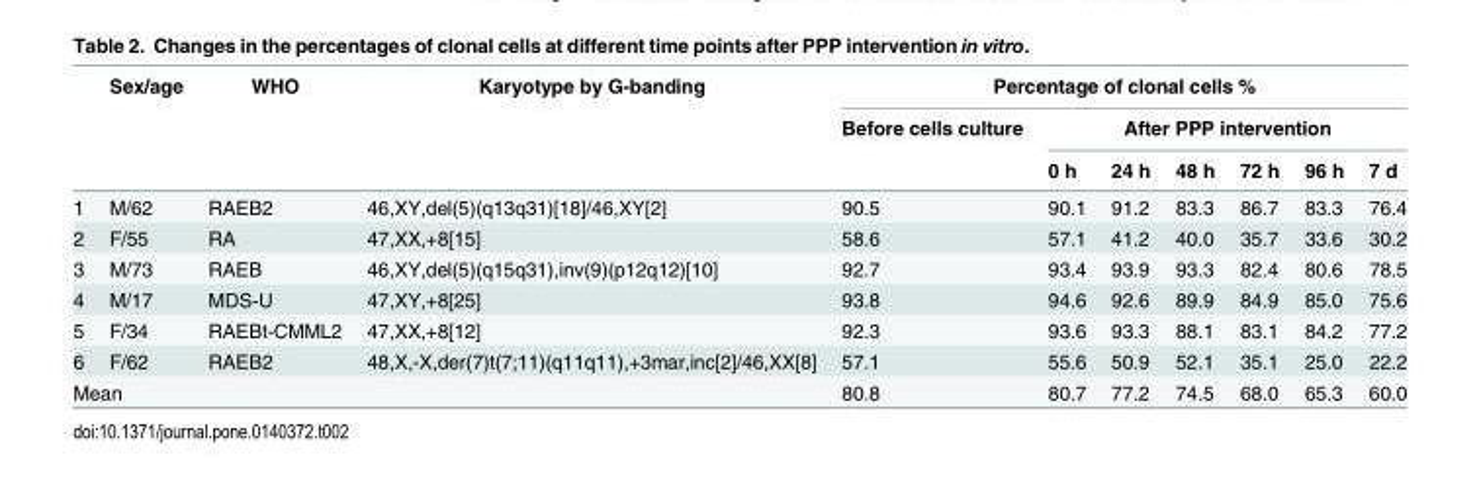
<table><thead><tr><td rowspan="3"></td><td rowspan="3">Sex/age</td><td rowspan="3">WHO</td><td rowspan="3">Karyotype by G-banding</td><td colspan="7">Percentage of clonal cells %</td></tr><tr><td rowspan="2">Before cells culture</td><td colspan="6">After PPP intervention</td></tr><tr><td>0 h</td><td>24 h</td><td>48 h</td><td>72 h</td><td>96 h</td><td>7 d</td></tr></thead><tbody><tr><td>1</td><td>M/62</td><td>RAEB2</td><td>46,XY,del(5)(q13q31)[18]/46,XY[2]</td><td>90.5</td><td>90.1</td><td>91.2</td><td>83.3</td><td>86.7</td><td>83.3</td><td>76.4</td></tr><tr><td>2</td><td>F/55</td><td>RA</td><td>47,XX,+8[15]</td><td>58.6</td><td>57.1</td><td>41.2</td><td>40.0</td><td>35.7</td><td>33.6</td><td>30.2</td></tr><tr><td>3</td><td>M/73</td><td>RAEB</td><td>46,XY,del(5)(q15q31),inv(9)(p12q12)[10]</td><td>92.7</td><td>93.4</td><td>93.9</td><td>93.3</td><td>82.4</td><td>80.6</td><td>78.5</td></tr><tr><td>4</td><td>M/17</td><td>MDS-U</td><td>47,XY,+8[25]</td><td>93.8</td><td>94.6</td><td>92.6</td><td>89.9</td><td>84.9</td><td>85.0</td><td>75.6</td></tr><tr><td>5</td><td>F/34</td><td>RAEBt-CMML2</td><td>47,XX,+8[12]</td><td>92.3</td><td>93.6</td><td>93.3</td><td>88.1</td><td>83.1</td><td>84.2</td><td>77.2</td></tr><tr><td>6</td><td>F/62</td><td>RAEB2</td><td>48,X,-X,der(7)t(7;11)(q11q11),+3mar,inc[2]/46,XX[8]</td><td>57.1</td><td>55.6</td><td>50.9</td><td>52.1</td><td>35.1</td><td>25.0</td><td>22.2</td></tr><tr><td colspan="4">Mean</td><td>80.8</td><td>80.7</td><td>77.2</td><td>74.5</td><td>68.0</td><td>65.3</td><td>60.0</td></tr></tbody></table>